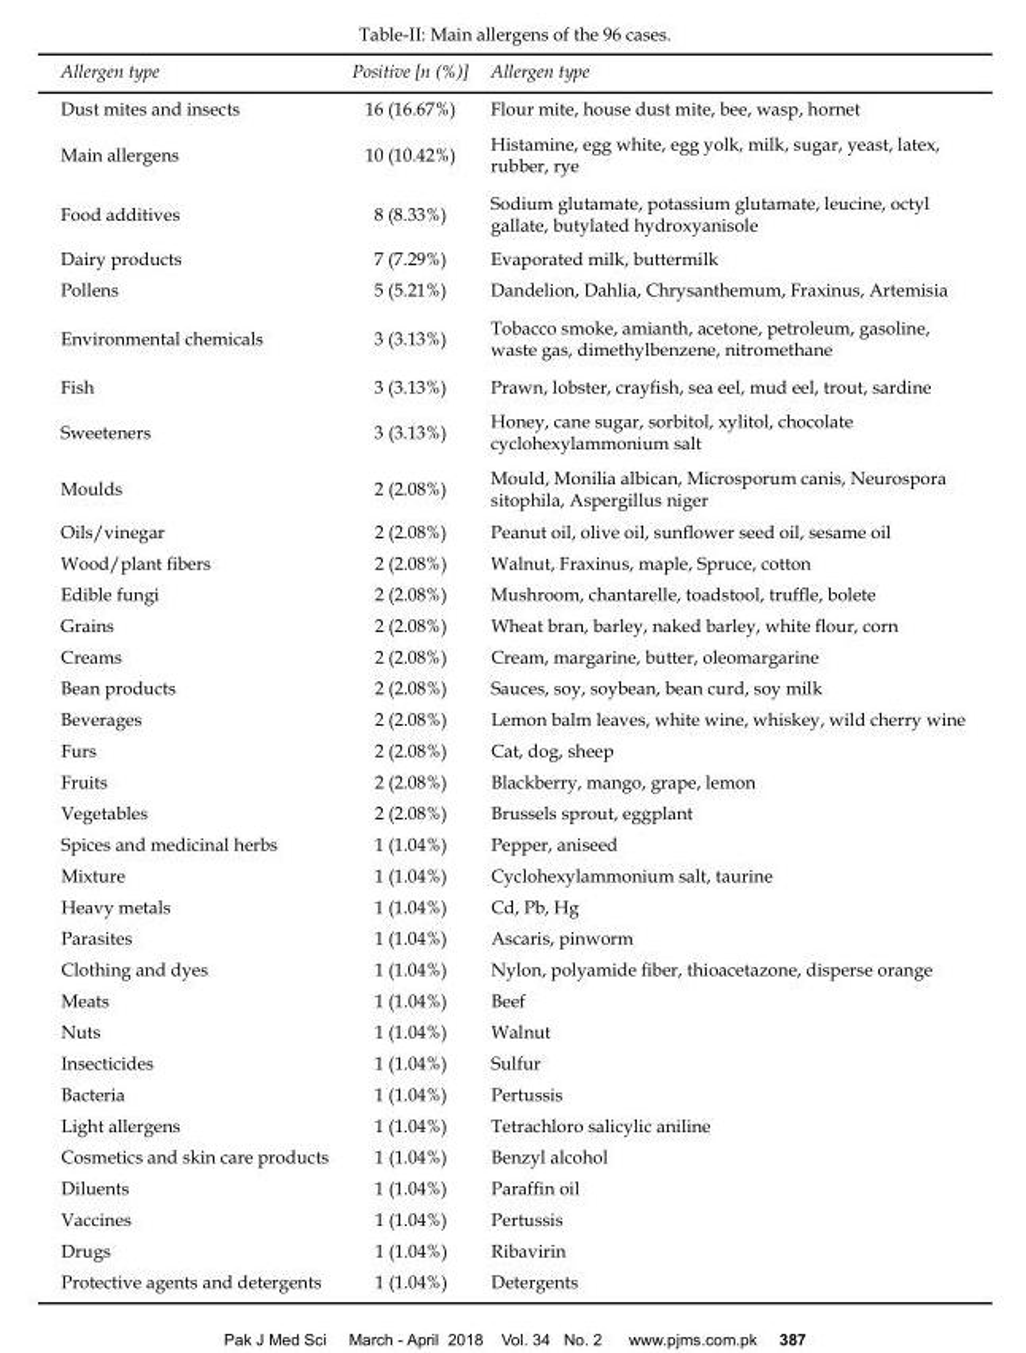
<table><thead><tr><td>Allergen type</td><td>Positive [n (%)]</td><td>Allergen type</td></tr></thead><tbody><tr><td>Dust mites and insects</td><td>16 (16.67%)</td><td>Flour mite, house dust mite, bee, wasp, hornet</td></tr><tr><td>Main allergens</td><td>10 (10.42%)</td><td>Histamine, egg white, egg yolk, milk, sugar, yeast, latex, rubber, rye</td></tr><tr><td>Food additives</td><td>8 (8.33%)</td><td>Sodium glutamate, potassium glutamate, leucine, octyl gallate, butylated hydroxyanisole</td></tr><tr><td>Dairy products</td><td>7 (7.29%)</td><td>Evaporated milk, buttermilk</td></tr><tr><td>Pollens</td><td>5 (5.21%)</td><td>Dandelion, Dahlia, Chrysanthemum, Fraxinus, Artemisia</td></tr><tr><td>Environmental chemicals</td><td>3 (3.13%)</td><td>Tobacco smoke, amianth, acetone, petroleum, gasoline, waste gas, dimethylbenzene, nitromethane</td></tr><tr><td>Fish</td><td>3 (3.13%)</td><td>Prawn, lobster, crayfish, sea eel, mud eel, trout, sardine</td></tr><tr><td>Sweeteners</td><td>3 (3.13%)</td><td>Honey, cane sugar, sorbitol, xylitol, chocolate cyclohexylammonium salt</td></tr><tr><td>Moulds</td><td>2 (2.08%)</td><td>Mould, Monilia albican, Microsporum canis, Neurospora sitophila, Aspergillus niger</td></tr><tr><td>Oils/vinegar</td><td>2 (2.08%)</td><td>Peanut oil, olive oil, sunflower seed oil, sesame oil</td></tr><tr><td>Wood/plant fibers</td><td>2 (2.08%)</td><td>Walnut, Fraxinus, maple, Spruce, cotton</td></tr><tr><td>Edible fungi</td><td>2 (2.08%)</td><td>Mushroom, chantarelle, toadstool, truffle, bolete</td></tr><tr><td>Grains</td><td>2 (2.08%)</td><td>Wheat bran, barley, naked barley, white flour, corn</td></tr><tr><td>Creams</td><td>2 (2.08%)</td><td>Cream, margarine, butter, oleomargarine</td></tr><tr><td>Bean products</td><td>2 (2.08%)</td><td>Sauces, soy, soybean, bean curd, soy milk</td></tr><tr><td>Beverages</td><td>2 (2.08%)</td><td>Lemon balm leaves, white wine, whiskey, wild cherry wine</td></tr><tr><td>Furs</td><td>2 (2.08%)</td><td>Cat, dog, sheep</td></tr><tr><td>Fruits</td><td>2 (2.08%)</td><td>Blackberry, mango, grape, lemon</td></tr><tr><td>Vegetables</td><td>2 (2.08%)</td><td>Brussels sprout, eggplant</td></tr><tr><td>Spices and medicinal herbs</td><td>1 (1.04%)</td><td>Pepper, aniseed</td></tr><tr><td>Mixture</td><td>1 (1.04%)</td><td>Cyclohexylammonium salt, taurine</td></tr><tr><td>Heavy metals</td><td>1 (1.04%)</td><td>Cd, Pb, Hg</td></tr><tr><td>Parasites</td><td>1 (1.04%)</td><td>Ascaris, pinworm</td></tr><tr><td>Clothing and dyes</td><td>1 (1.04%)</td><td>Nylon, polyamide fiber, thioacetazone, disperse orange</td></tr><tr><td>Meats</td><td>1 (1.04%)</td><td>Beef</td></tr><tr><td>Nuts</td><td>1 (1.04%)</td><td>Walnut</td></tr><tr><td>Insecticides</td><td>1 (1.04%)</td><td>Sulfur</td></tr><tr><td>Bacteria</td><td>1 (1.04%)</td><td>Pertussis</td></tr><tr><td>Light allergens</td><td>1 (1.04%)</td><td>Tetrachloro salicylic aniline</td></tr><tr><td>Cosmetics and skin care products</td><td>1 (1.04%)</td><td>Benzyl alcohol</td></tr><tr><td>Diluents</td><td>1 (1.04%)</td><td>Paraffin oil</td></tr><tr><td>Vaccines</td><td>1 (1.04%)</td><td>Pertussis</td></tr><tr><td>Drugs</td><td>1 (1.04%)</td><td>Ribavirin</td></tr><tr><td>Protective agents and detergents</td><td>1 (1.04%)</td><td>Detergents</td></tr></tbody></table>